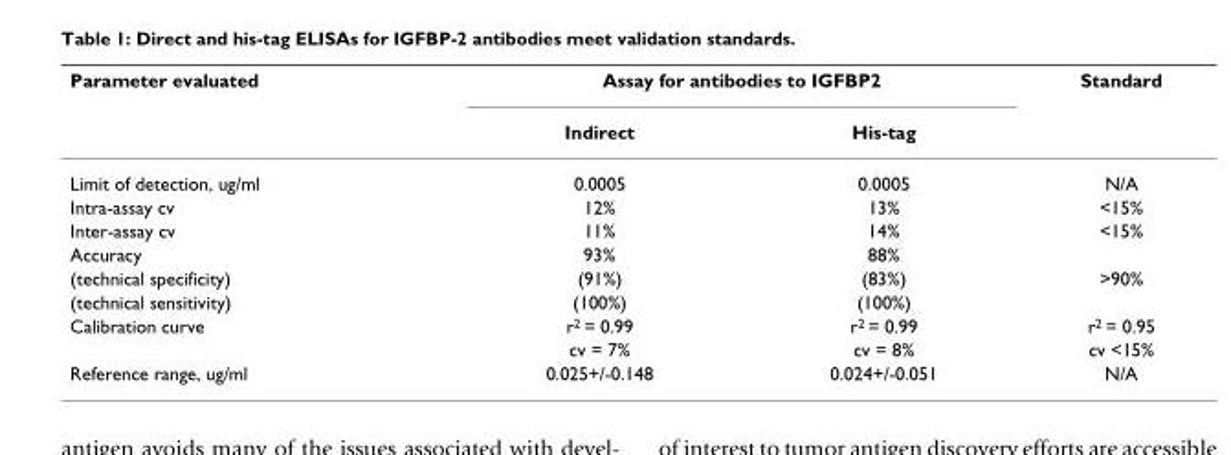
<table><thead><tr><td rowspan="2">Parameter evaluated</td><td colspan="2">Assay for antibodies to IGFBP2</td><td rowspan="2">Standard</td></tr><tr><td>Indirect</td><td>His-tag</td></tr></thead><tbody><tr><td>Limit of detection, ug/ml</td><td>0.0005</td><td>0.0005</td><td>N/A</td></tr><tr><td>Intra-assay cv</td><td>12%</td><td>13%</td><td>&lt;15%</td></tr><tr><td>Inter-assay cv</td><td>11%</td><td>14%</td><td>&lt;15%</td></tr><tr><td>Accuracy</td><td>93%</td><td>88%</td><td></td></tr><tr><td>(technical specificity)</td><td>(91%)</td><td>(83%)</td><td>&gt;90%</td></tr><tr><td>(technical sensitivity)</td><td>(100%)</td><td>(100%)</td><td></td></tr><tr><td rowspan="2">Calibration curve</td><td>r<sup>2</sup> = 0.99</td><td>r<sup>2</sup> = 0.99</td><td>r<sup>2</sup> = 0.95</td></tr><tr><td>cv = 7%</td><td>cv = 8%</td><td>cv &lt;15%</td></tr><tr><td>Reference range, ug/ml</td><td>0.025+/-0.148</td><td>0.024+/-0.051</td><td>N/A</td></tr></tbody></table>